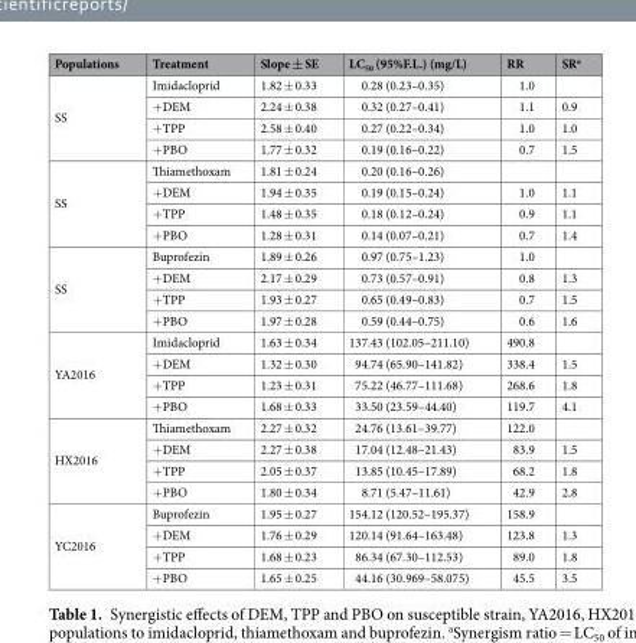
<table><thead><tr><td>Populations</td><td>Treatment</td><td>Slope ± SE</td><td>LC<sub>50</sub> (95%F.L.) (mg/L)</td><td>RR</td><td>SR<sup>a</sup></td></tr></thead><tbody><tr><td rowspan="4">SS</td><td>Imidacloprid</td><td>1.82 ± 0.33</td><td>0.28 (0.23–0.35)</td><td>1.0</td><td></td></tr><tr><td>+DEM</td><td>2.24 ± 0.38</td><td>0.32 (0.27–0.41)</td><td>1.1</td><td>0.9</td></tr><tr><td>+TPP</td><td>2.58 ± 0.40</td><td>0.27 (0.22–0.34)</td><td>1.0</td><td>1.0</td></tr><tr><td>+PBO</td><td>1.77 ± 0.32</td><td>0.19 (0.16–0.22)</td><td>0.7</td><td>1.5</td></tr><tr><td rowspan="4">SS</td><td>Thiamethoxam</td><td>1.81 ± 0.24</td><td>0.20 (0.16–0.26)</td><td></td><td></td></tr><tr><td>+DEM</td><td>1.94 ± 0.35</td><td>0.19 (0.15–0.24)</td><td>1.0</td><td>1.1</td></tr><tr><td>+TPP</td><td>1.48 ± 0.35</td><td>0.18 (0.12–0.24)</td><td>0.9</td><td>1.1</td></tr><tr><td>+PBO</td><td>1.28 ± 0.31</td><td>0.14 (0.07–0.21)</td><td>0.7</td><td>1.4</td></tr><tr><td rowspan="4">SS</td><td>Buprofezin</td><td>1.89 ± 0.26</td><td>0.97 (0.75–1.23)</td><td>1.0</td><td></td></tr><tr><td>+DEM</td><td>2.17 ± 0.29</td><td>0.73 (0.57–0.91)</td><td>0.8</td><td>1.3</td></tr><tr><td>+TPP</td><td>1.93 ± 0.27</td><td>0.65 (0.49–0.83)</td><td>0.7</td><td>1.5</td></tr><tr><td>+PBO</td><td>1.97 ± 0.28</td><td>0.59 (0.44–0.75)</td><td>0.6</td><td>1.6</td></tr><tr><td rowspan="4">YA2016</td><td>Imidacloprid</td><td>1.63 ± 0.34</td><td>137.43 (102.05–211.10)</td><td>490.8</td><td></td></tr><tr><td>+DEM</td><td>1.32 ± 0.30</td><td>94.74 (65.90–141.82)</td><td>338.4</td><td>1.5</td></tr><tr><td>+TPP</td><td>1.23 ± 0.31</td><td>75.22 (46.77–111.68)</td><td>268.6</td><td>1.8</td></tr><tr><td>+PBO</td><td>1.68 ± 0.33</td><td>33.50 (23.59–44.40)</td><td>119.7</td><td>4.1</td></tr><tr><td rowspan="4">HX2016</td><td>Thiamethoxam</td><td>2.27 ± 0.32</td><td>24.76 (13.61–39.77)</td><td>122.0</td><td></td></tr><tr><td>+DEM</td><td>2.27 ± 0.38</td><td>17.04 (12.48–21.43)</td><td>83.9</td><td>1.5</td></tr><tr><td>+TPP</td><td>2.05 ± 0.37</td><td>13.85 (10.45–17.89)</td><td>68.2</td><td>1.8</td></tr><tr><td>+PBO</td><td>1.80 ± 0.34</td><td>8.71 (5.47–11.61)</td><td>42.9</td><td>2.8</td></tr><tr><td rowspan="4">YC2016</td><td>Buprofezin</td><td>1.95 ± 0.27</td><td>154.12 (120.52–195.37)</td><td>158.9</td><td></td></tr><tr><td>+DEM</td><td>1.76 ± 0.29</td><td>120.14 (91.64–163.48)</td><td>123.8</td><td>1.3</td></tr><tr><td>+TPP</td><td>1.68 ± 0.23</td><td>86.34 (67.30–112.53)</td><td>89.0</td><td>1.8</td></tr><tr><td>+PBO</td><td>1.65 ± 0.25</td><td>44.16 (30.969–58.075)</td><td>45.5</td><td>3.5</td></tr></tbody></table>